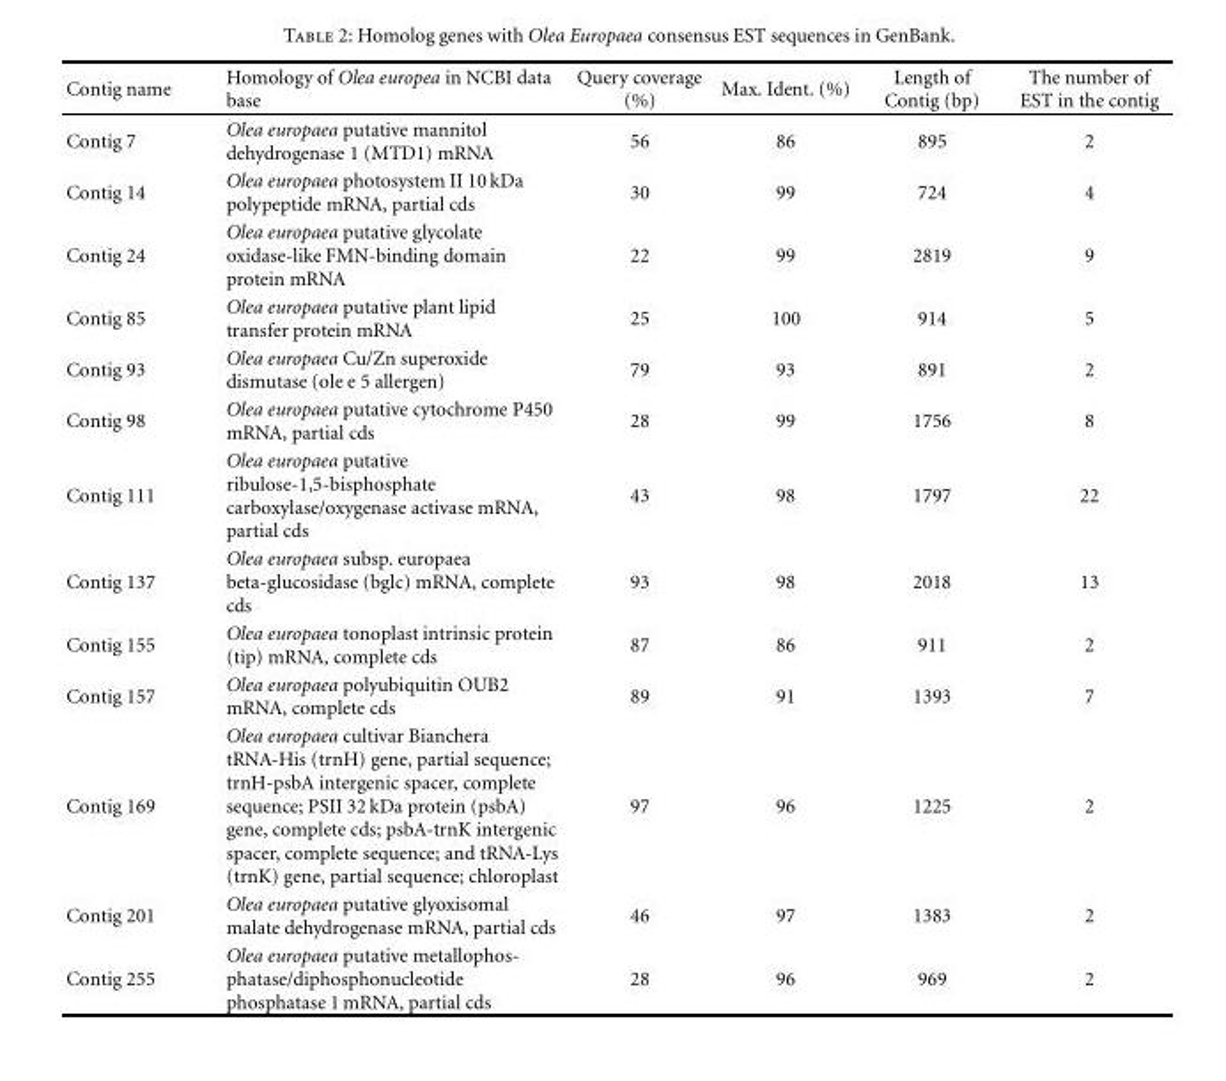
<table><thead><tr><td>Contig name</td><td>Homology of Olea europea in NCBI data base</td><td>Query coverage (%)</td><td>Max. Ident. (%)</td><td>Length of Contig (bp)</td><td>The number of EST in the contig</td></tr></thead><tbody><tr><td>Contig 7</td><td>Olea europaea putative mannitol dehydrogenase 1 (MTD1) mRNA</td><td>56</td><td>86</td><td>895</td><td>2</td></tr><tr><td>Contig 14</td><td>Olea europaea photosystem II 10 kDa polypeptide mRNA, partial cds</td><td>30</td><td>99</td><td>724</td><td>4</td></tr><tr><td>Contig 24</td><td>Olea europaea putative glycolate oxidase-like FMN-binding domain protein mRNA</td><td>22</td><td>99</td><td>2819</td><td>9</td></tr><tr><td>Contig 85</td><td>Olea europaea putative plant lipid transfer protein mRNA</td><td>25</td><td>100</td><td>914</td><td>5</td></tr><tr><td>Contig 93</td><td>Olea europaea Cu/Zn superoxide dismutase (ole e 5 allergen)</td><td>79</td><td>93</td><td>891</td><td>2</td></tr><tr><td>Contig 98</td><td>Olea europaea putative cytochrome P450 mRNA, partial cds</td><td>28</td><td>99</td><td>1756</td><td>8</td></tr><tr><td>Contig 111</td><td>Olea europaea putative ribulose-1,5-bisphosphate carboxylase/oxygenase activase mRNA, partial cds</td><td>43</td><td>98</td><td>1797</td><td>22</td></tr><tr><td>Contig 137</td><td>Olea europaea subsp. europaea beta-glucosidase (bglc) mRNA, complete cds</td><td>93</td><td>98</td><td>2018</td><td>13</td></tr><tr><td>Contig 155</td><td>Olea europaea tonoplast intrinsic protein (tip) mRNA, complete cds</td><td>87</td><td>86</td><td>911</td><td>2</td></tr><tr><td>Contig 157</td><td>Olea europaea polyubiquitin OUB2 mRNA, complete cds</td><td>89</td><td>91</td><td>1393</td><td>7</td></tr><tr><td>Contig 169</td><td>Olea europaea cultivar Bianchera tRNA-His (trnH) gene, partial sequence; trnH-psbA intergenic spacer, complete sequence; PSII 32 kDa protein (psbA) gene, complete cds; psbA-trnK intergenic spacer, complete sequence; and tRNA-Lys (trnK) gene, partial sequence; chloroplast</td><td>97</td><td>96</td><td>1225</td><td>2</td></tr><tr><td>Contig 201</td><td>Olea europaea putative glyoxisomal malate dehydrogenase mRNA, partial cds</td><td>46</td><td>97</td><td>1383</td><td>2</td></tr><tr><td>Contig 255</td><td>Olea europaea putative metallophos- phatase/diphosphonucleotide phosphatase 1 mRNA, partial cds</td><td>28</td><td>96</td><td>969</td><td>2</td></tr></tbody></table>